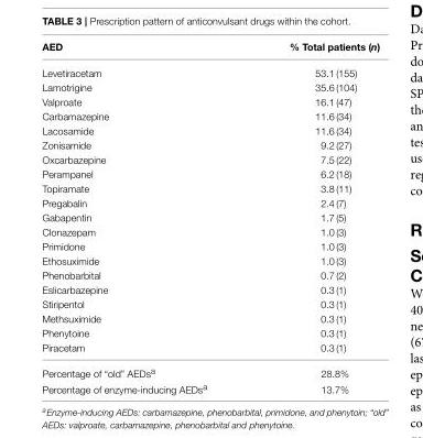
<table><thead><tr><td>AED</td><td>% Total patients (n)</td></tr></thead><tbody><tr><td>Levetiracetam</td><td>53.1 (155)</td></tr><tr><td>Lamotrigine</td><td>35.6 (104)</td></tr><tr><td>Valproate</td><td>16.1 (47)</td></tr><tr><td>Carbamazepine</td><td>11.6 (34)</td></tr><tr><td>Lacosamide</td><td>11.6 (34)</td></tr><tr><td>Zonisamide</td><td>9.2 (27)</td></tr><tr><td>Oxcarbazepine</td><td>7.5 (22)</td></tr><tr><td>Perampanel</td><td>6.2 (18)</td></tr><tr><td>Topiramate</td><td>3.8 (11)</td></tr><tr><td>Pregabalin</td><td>2.4 (7)</td></tr><tr><td>Gabapentin</td><td>1.7 (5)</td></tr><tr><td>Clonazepam</td><td>1.0 (3)</td></tr><tr><td>Primidone</td><td>1.0 (3)</td></tr><tr><td>Ethosuximide</td><td>1.0 (3)</td></tr><tr><td>Phenobarbital</td><td>0.7 (2)</td></tr><tr><td>Eslicarbazepine</td><td>0.3 (1)</td></tr><tr><td>Stiripentol</td><td>0.3 (1)</td></tr><tr><td>Methsuximide</td><td>0.3 (1)</td></tr><tr><td>Phenytoine</td><td>0.3 (1)</td></tr><tr><td>Piracetam</td><td>0.3 (1)</td></tr><tr><td>Percentage of “old” AEDs<sup>a</sup></td><td>28.8%</td></tr><tr><td>Percentage of enzyme-inducing AEDs<sup>a</sup></td><td>13.7%</td></tr></tbody></table>